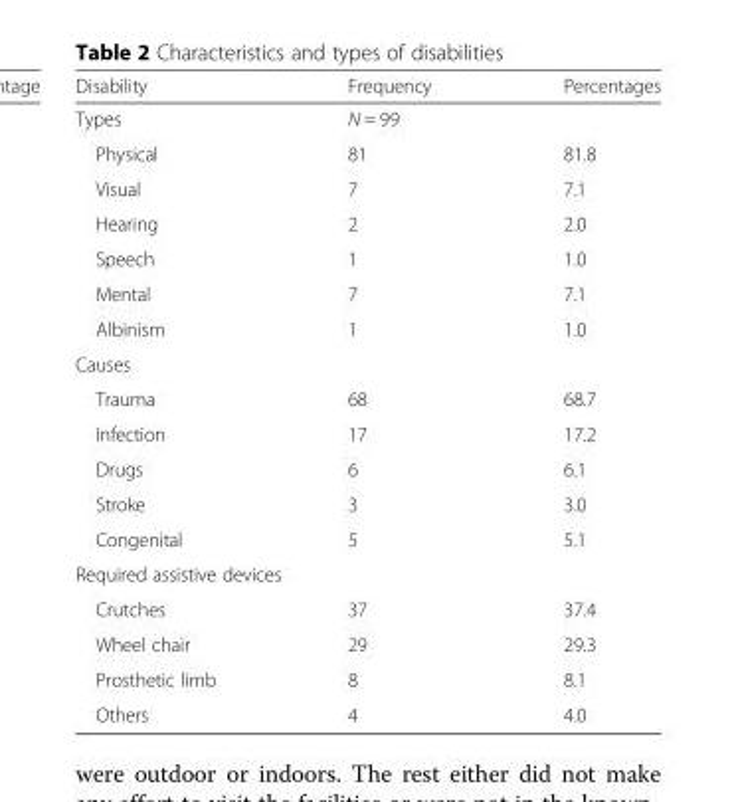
<table><thead><tr><td>Disability</td><td>Frequency</td><td>Percentages</td></tr></thead><tbody><tr><td>Types</td><td>N = 99</td><td></td></tr><tr><td>Physical</td><td>81</td><td>81.8</td></tr><tr><td>Visual</td><td>7</td><td>7.1</td></tr><tr><td>Hearing</td><td>2</td><td>2.0</td></tr><tr><td>Speech</td><td>1</td><td>1.0</td></tr><tr><td>Mental</td><td>7</td><td>7.1</td></tr><tr><td>Albinism</td><td>1</td><td>1.0</td></tr><tr><td colspan="3">Causes</td></tr><tr><td>Trauma</td><td>68</td><td>68.7</td></tr><tr><td>Infection</td><td>17</td><td>17.2</td></tr><tr><td>Drugs</td><td>6</td><td>6.1</td></tr><tr><td>Stroke</td><td>3</td><td>3.0</td></tr><tr><td>Congenital</td><td>5</td><td>5.1</td></tr><tr><td colspan="3">Required assistive devices</td></tr><tr><td>Crutches</td><td>37</td><td>37.4</td></tr><tr><td>Wheel chair</td><td>29</td><td>29.3</td></tr><tr><td>Prosthetic limb</td><td>8</td><td>8.1</td></tr><tr><td>Others</td><td>4</td><td>4.0</td></tr></tbody></table>